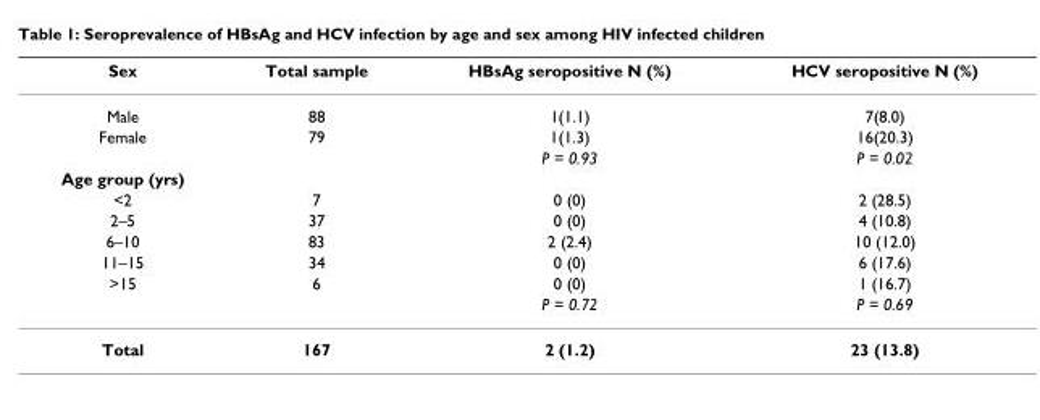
<table><thead><tr><td>Sex</td><td>Total sample</td><td>HBsAg seropositive N (%)</td><td>HCV seropositive N (%)</td></tr></thead><tbody><tr><td>Male</td><td>88</td><td>1(1.1)</td><td>7(8.0)</td></tr><tr><td rowspan="2">Female</td><td>79</td><td>1(1.3)</td><td>16(20.3)</td></tr><tr><td></td><td>P = 0.93</td><td>P = 0.02</td></tr><tr><td colspan="4">Age group (yrs)</td></tr><tr><td>&lt;2</td><td>7</td><td>0 (0)</td><td>2 (28.5)</td></tr><tr><td>2–5</td><td>37</td><td>0 (0)</td><td>4 (10.8)</td></tr><tr><td>6–10</td><td>83</td><td>2 (2.4)</td><td>10 (12.0)</td></tr><tr><td>11–15</td><td>34</td><td>0 (0)</td><td>6 (17.6)</td></tr><tr><td rowspan="2">&gt;15</td><td>6</td><td>0 (0)</td><td>1 (16.7)</td></tr><tr><td></td><td>P = 0.72</td><td>P = 0.69</td></tr><tr><td>Total</td><td>167</td><td>2 (1.2)</td><td>23 (13.8)</td></tr></tbody></table>